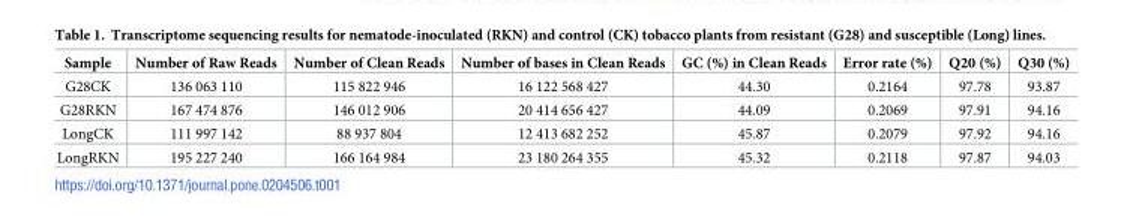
<table><thead><tr><td>Sample</td><td>Number of Raw Reads</td><td>Number of Clean Reads</td><td>Number of bases in Clean Reads</td><td>GC (%) in Clean Reads</td><td>Error rate (%)</td><td>Q20 (%)</td><td>Q30 (%)</td></tr></thead><tbody><tr><td>G28CK</td><td>136 063 110</td><td>115 822 946</td><td>16 122 568 427</td><td>44.30</td><td>0.2164</td><td>97.78</td><td>93.87</td></tr><tr><td>G28RKN</td><td>167 474 876</td><td>146 012 906</td><td>20 414 656 427</td><td>44.09</td><td>0.2069</td><td>97.91</td><td>94.16</td></tr><tr><td>LongCK</td><td>111 997 142</td><td>88 937 804</td><td>12 413 682 252</td><td>45.87</td><td>0.2079</td><td>97.92</td><td>94.16</td></tr><tr><td>LongRKN</td><td>195 227 240</td><td>166 164 984</td><td>23 180 264 355</td><td>45.32</td><td>0.2118</td><td>97.87</td><td>94.03</td></tr></tbody></table>